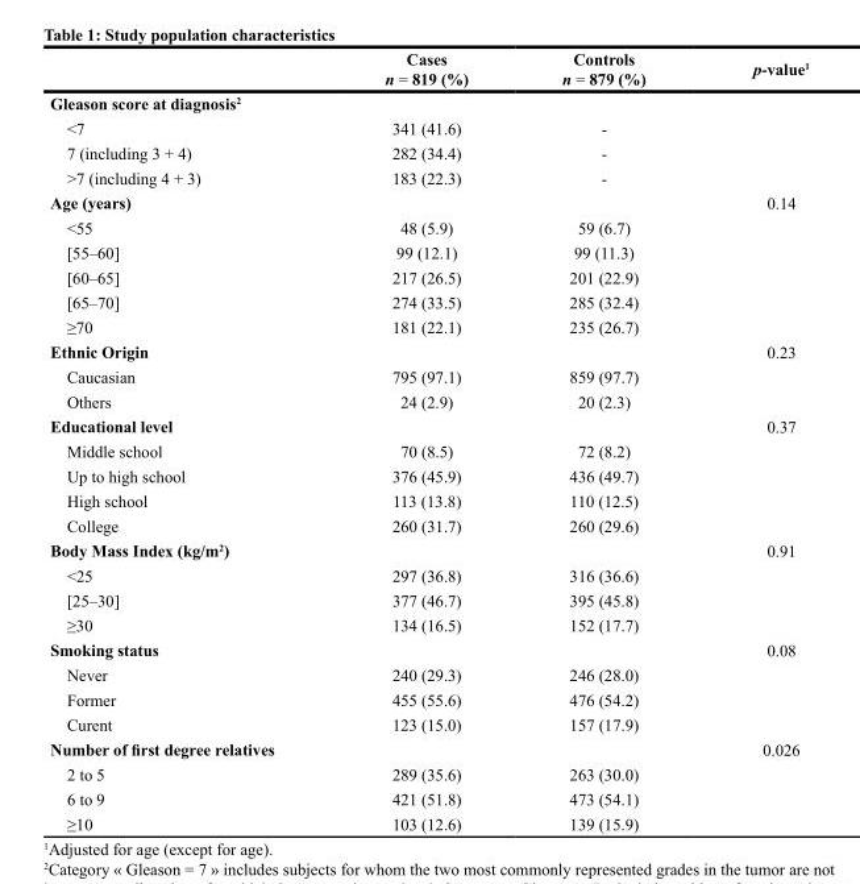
<table><thead><tr><td></td><td>Cases n = 819 (%)</td><td>Controls n = 879 (%)</td><td>p-value<sup>1</sup></td></tr></thead><tbody><tr><td colspan="4">Gleason score at diagnosis<sup>2</sup></td></tr><tr><td>&lt;7</td><td>341 (41.6)</td><td>-</td><td></td></tr><tr><td>7 (including 3 + 4)</td><td>282 (34.4)</td><td>-</td><td></td></tr><tr><td>&gt;7 (including 4 + 3)</td><td>183 (22.3)</td><td>-</td><td></td></tr><tr><td>Age (years)</td><td></td><td></td><td>0.14</td></tr><tr><td>&lt;55</td><td>48 (5.9)</td><td>59 (6.7)</td><td></td></tr><tr><td>[55–60]</td><td>99 (12.1)</td><td>99 (11.3)</td><td></td></tr><tr><td>[60–65]</td><td>217 (26.5)</td><td>201 (22.9)</td><td></td></tr><tr><td>[65–70]</td><td>274 (33.5)</td><td>285 (32.4)</td><td></td></tr><tr><td>≥70</td><td>181 (22.1)</td><td>235 (26.7)</td><td></td></tr><tr><td>Ethnic Origin</td><td></td><td></td><td>0.23</td></tr><tr><td>Caucasian</td><td>795 (97.1)</td><td>859 (97.7)</td><td></td></tr><tr><td>Others</td><td>24 (2.9)</td><td>20 (2.3)</td><td></td></tr><tr><td>Educational level</td><td></td><td></td><td>0.37</td></tr><tr><td>Middle school</td><td>70 (8.5)</td><td>72 (8.2)</td><td></td></tr><tr><td>Up to high school</td><td>376 (45.9)</td><td>436 (49.7)</td><td></td></tr><tr><td>High school</td><td>113 (13.8)</td><td>110 (12.5)</td><td></td></tr><tr><td>College</td><td>260 (31.7)</td><td>260 (29.6)</td><td></td></tr><tr><td>Body Mass Index (kg/m<sup>2</sup>)</td><td></td><td></td><td>0.91</td></tr><tr><td>&lt;25</td><td>297 (36.8)</td><td>316 (36.6)</td><td></td></tr><tr><td>[25–30]</td><td>377 (46.7)</td><td>395 (45.8)</td><td></td></tr><tr><td>≥30</td><td>134 (16.5)</td><td>152 (17.7)</td><td></td></tr><tr><td>Smoking status</td><td></td><td></td><td>0.08</td></tr><tr><td>Never</td><td>240 (29.3)</td><td>246 (28.0)</td><td></td></tr><tr><td>Former</td><td>455 (55.6)</td><td>476 (54.2)</td><td></td></tr><tr><td>Curent</td><td>123 (15.0)</td><td>157 (17.9)</td><td></td></tr><tr><td>Number of first degree relatives</td><td></td><td></td><td>0.026</td></tr><tr><td>2 to 5</td><td>289 (35.6)</td><td>263 (30.0)</td><td></td></tr><tr><td>6 to 9</td><td>421 (51.8)</td><td>473 (54.1)</td><td></td></tr><tr><td>≥10</td><td>103 (12.6)</td><td>139 (15.9)</td><td></td></tr></tbody></table>